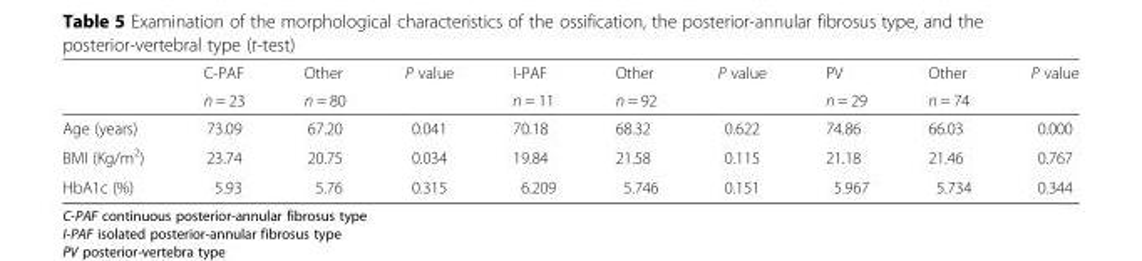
<table><thead><tr><td rowspan="2"></td><td rowspan="2">C-PAF n = 23</td><td rowspan="2">Other n = 80</td><td rowspan="2">P value</td><td rowspan="2">I-PAF n = 11</td><td rowspan="2">Other n = 92</td><td rowspan="2">P value</td><td rowspan="2">PV n = 29</td><td rowspan="2">Other n = 74</td><td rowspan="2">P value</td></tr><tr></tr></thead><tbody><tr><td>Age (years)</td><td>73.09</td><td>67.20</td><td>0.041</td><td>70.18</td><td>68.32</td><td>0.622</td><td>74.86</td><td>66.03</td><td>0.000</td></tr><tr><td>BMI (Kg/m<sup>2</sup>)</td><td>23.74</td><td>20.75</td><td>0.034</td><td>19.84</td><td>21.58</td><td>0.115</td><td>21.18</td><td>21.46</td><td>0.767</td></tr><tr><td>HbA1c (%)</td><td>5.93</td><td>5.76</td><td>0.315</td><td>6.209</td><td>5.746</td><td>0.151</td><td>5.967</td><td>5.734</td><td>0.344</td></tr></tbody></table>